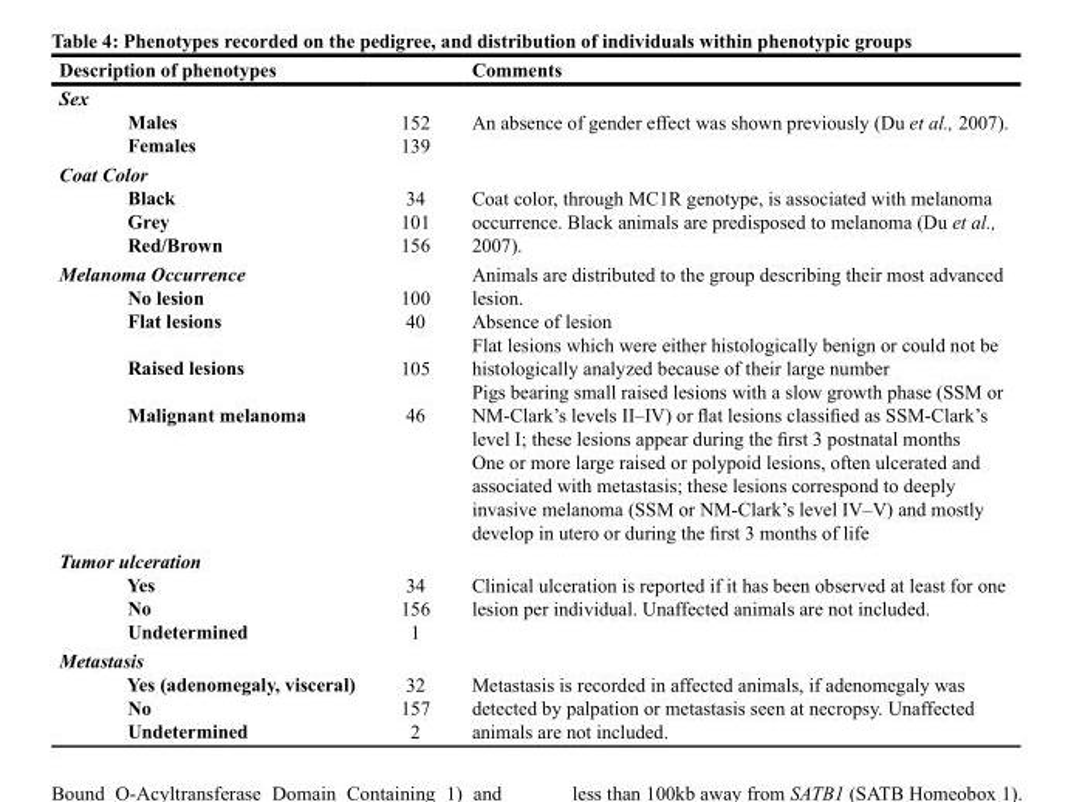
<table><thead><tr><td>Description of phenotypes</td><td></td><td>Comments</td></tr></thead><tbody><tr><td>Sex Males Females</td><td>152 139</td><td>An absence of gender effect was shown previously (Du et al., 2007).</td></tr><tr><td>Coat Color Black Grey Red/Brown</td><td>34 101 156</td><td>Coat color, through MC1R genotype, is associated with melanoma occurrence. Black animals are predisposed to melanoma (Du et al., 2007).</td></tr><tr><td>Melanoma Occurrence No lesion Flat lesions Raised lesions Malignant melanoma</td><td>100 40 105 46</td><td>Animals are distributed to the group describing their most advanced lesion. Absence of lesion Flat lesions which were either histologically benign or could not be histologically analyzed because of their large number Pigs bearing small raised lesions with a slow growth phase (SSM or NM-Clark’s levels II–IV) or flat lesions classified as SSM-Clark’s level I; these lesions appear during the first 3 postnatal months One or more large raised or polypoid lesions, often ulcerated and associated with metastasis; these lesions correspond to deeply invasive melanoma (SSM or NM-Clark’s level IV–V) and mostly develop in utero or during the first 3 months of life</td></tr><tr><td>Tumor ulceration Yes No Undetermined</td><td>34 156 1</td><td>Clinical ulceration is reported if it has been observed at least for one lesion per individual. Unaffected animals are not included.</td></tr><tr><td>Metastasis Yes (adenomegaly, visceral) No Undetermined</td><td>32 157 2</td><td>Metastasis is recorded in affected animals, if adenomegaly was detected by palpation or metastasis seen at necropsy. Unaffected animals are not included.</td></tr></tbody></table>